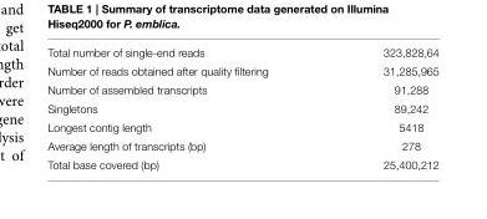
<table><tbody><tr><td>Total number of single-end reads</td><td>323,828,64</td></tr><tr><td>Number of reads obtained after quality filtering</td><td>31,285,965</td></tr><tr><td>Number of assembled transcripts</td><td>91,288</td></tr><tr><td>Singletons</td><td>89,242</td></tr><tr><td>Longest contig length</td><td>5418</td></tr><tr><td>Average length of transcripts (bp)</td><td>278</td></tr><tr><td>Total base covered (bp)</td><td>25,400,212</td></tr></tbody></table>